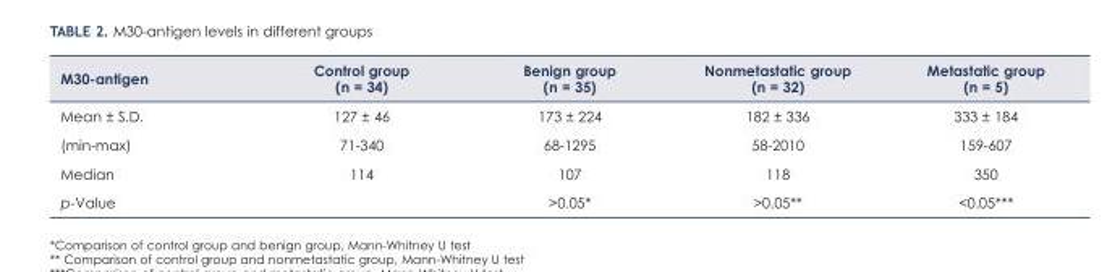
<table><thead><tr><td>M30-antigen</td><td>Control group (n = 34)</td><td>Benign group (n = 35)</td><td>Nonmetastatic group (n = 32)</td><td>Metastatic group (n = 5)</td></tr></thead><tbody><tr><td>Mean ± S.D.</td><td>127 ± 46</td><td>173 ± 224</td><td>182 ± 336</td><td>333 ± 184</td></tr><tr><td>(min-max)</td><td>71-340</td><td>68-1295</td><td>58-2010</td><td>159-607</td></tr><tr><td>Median</td><td>114</td><td>107</td><td>118</td><td>350</td></tr><tr><td>p-Value</td><td></td><td>&gt;0.05*</td><td>&gt;0.05**</td><td>&lt;0.05***</td></tr></tbody></table>